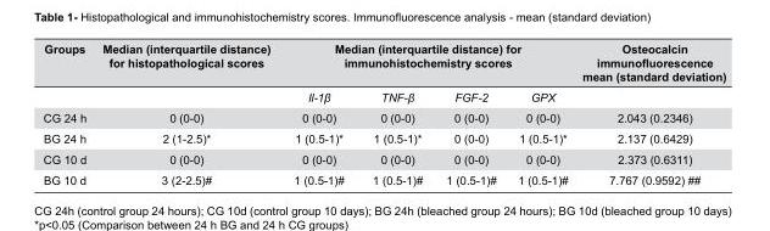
<table><thead><tr><td rowspan="2">Groups</td><td rowspan="2">Median (interquartile distance) for histopathological scores</td><td colspan="4">Median (interquartile distance) for immunohistochemistry scores</td><td rowspan="2">Osteocalcin immunofluorescence mean (standard deviation)</td></tr><tr><td>Il-1β</td><td>TNF-β</td><td>FGF-2</td><td>GPX</td></tr></thead><tbody><tr><td>CG 24 h</td><td>0 (0-0)</td><td>0 (0-0)</td><td>0 (0-0)</td><td>0 (0-0)</td><td>0 (0-0)</td><td>2.043 (0.2346)</td></tr><tr><td>BG 24 h</td><td>2 (1-2.5)*</td><td>1 (0.5-1)*</td><td>1 (0.5-1)*</td><td>0 (0-0)</td><td>1 (0.5-1)*</td><td>2.137 (0.6429)</td></tr><tr><td>CG 10 d</td><td>0 (0-0)</td><td>0 (0-0)</td><td>0 (0-0)</td><td>0 (0-0)</td><td>0 (0-0)</td><td>2.373 (0.6311)</td></tr><tr><td>BG 10 d</td><td>3 (2-2.5)#</td><td>1 (0.5-1)#</td><td>1 (0.5-1)#</td><td>1 (0.5-1)#</td><td>1 (0.5-1)#</td><td>7.767 (0.9592) ##</td></tr></tbody></table>